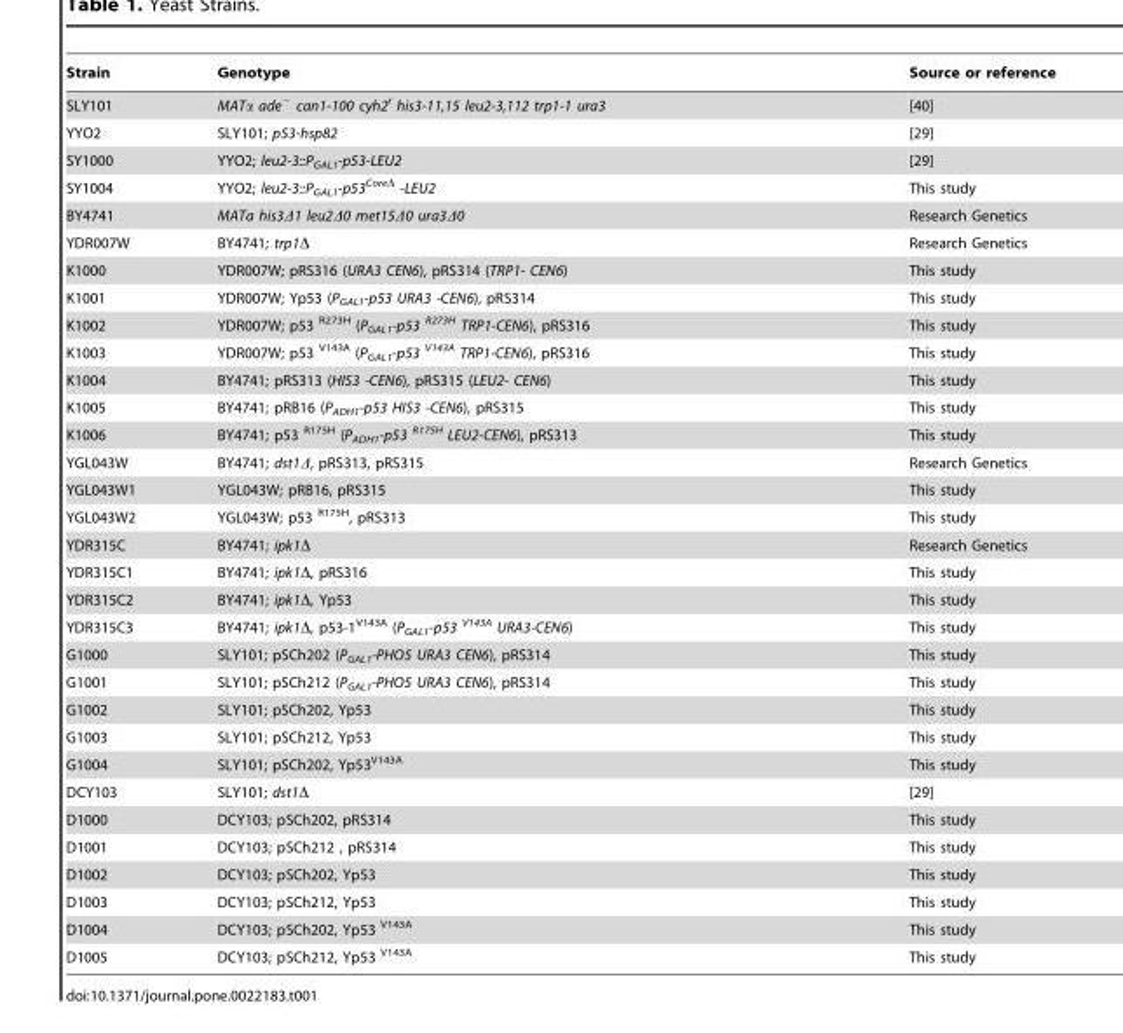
<table><thead><tr><td>Strain</td><td>Genotype</td><td>Source or reference</td></tr></thead><tbody><tr><td>SLY101</td><td>MATα ade<sup>−</sup> can1-100 cyh2<sup>r</sup> his3-11,15 leu2-3,112 trp1-1 ura3</td><td>[40]</td></tr><tr><td>YYO2</td><td>SLY101; p53-hsp82</td><td>[29]</td></tr><tr><td>SY1000</td><td>YYO2; leu2-3::P<sub>GAL1</sub>-p53-LEU2</td><td>[29]</td></tr><tr><td>SY1004</td><td>YYO2; leu2-3::P<sub>GAL1</sub>-p53<sup>CoreΔ</sup> -LEU2</td><td>This study</td></tr><tr><td>BY4741</td><td>MATa his3Δ1 leu2Δ0 met15Δ0 ura3Δ0</td><td>Research Genetics</td></tr><tr><td>YDR007W</td><td>BY4741; trp1Δ</td><td>Research Genetics</td></tr><tr><td>K1000</td><td>YDR007W; pRS316 (URA3 CEN6), pRS314 (TRP1- CEN6)</td><td>This study</td></tr><tr><td>K1001</td><td>YDR007W; Yp53 (P<sub>GAL1</sub>-p53 URA3 -CEN6), pRS314</td><td>This study</td></tr><tr><td>K1002</td><td>YDR007W; p53 <sup>R273H</sup> (P<sub>GAL1</sub>-p53 <sup>R273H</sup> TRP1-CEN6), pRS316</td><td>This study</td></tr><tr><td>K1003</td><td>YDR007W; p53 <sup>V143A</sup> (P<sub>GAL1</sub>-p53 <sup>V143A</sup> TRP1-CEN6), pRS316</td><td>This study</td></tr><tr><td>K1004</td><td>BY4741; pRS313 (HIS3 -CEN6), pRS315 (LEU2- CEN6)</td><td>This study</td></tr><tr><td>K1005</td><td>BY4741; pRB16 (P<sub>ADH1</sub>-p53 HIS3 -CEN6), pRS315</td><td>This study</td></tr><tr><td>K1006</td><td>BY4741; p53 <sup>R175H</sup> (P<sub>ADH1</sub>-p53 <sup>R175H</sup> LEU2-CEN6), pRS313</td><td>This study</td></tr><tr><td>YGL043W</td><td>BY4741; dst1Δ, pRS313, pRS315</td><td>Research Genetics</td></tr><tr><td>YGL043W1</td><td>YGL043W; pRB16, pRS315</td><td>This study</td></tr><tr><td>YGL043W2</td><td>YGL043W; p53 <sup>R175H</sup>, pRS313</td><td>This study</td></tr><tr><td>YDR315C</td><td>BY4741; ipk1Δ</td><td>Research Genetics</td></tr><tr><td>YDR315C1</td><td>BY4741; ipk1Δ, pRS316</td><td>This study</td></tr><tr><td>YDR315C2</td><td>BY4741; ipk1Δ, Yp53</td><td>This study</td></tr><tr><td>YDR315C3</td><td>BY4741; ipk1Δ, p53-1<sup>V143A</sup> (P<sub>GAL1</sub>-p53 <sup>V143A</sup> URA3-CEN6)</td><td>This study</td></tr><tr><td>G1000</td><td>SLY101; pSCh202 (P<sub>GAL1</sub>-PHO5 URA3 CEN6), pRS314</td><td>This study</td></tr><tr><td>G1001</td><td>SLY101; pSCh212 (P<sub>GAL1</sub>-PHO5 URA3 CEN6), pRS314</td><td>This study</td></tr><tr><td>G1002</td><td>SLY101; pSCh202, Yp53</td><td>This study</td></tr><tr><td>G1003</td><td>SLY101; pSCh212, Yp53</td><td>This study</td></tr><tr><td>G1004</td><td>SLY101; pSCh202, Yp53<sup>V143A</sup></td><td>This study</td></tr><tr><td>DCY103</td><td>SLY101; dst1Δ</td><td>[29]</td></tr><tr><td>D1000</td><td>DCY103; pSCh202, pRS314</td><td>This study</td></tr><tr><td>D1001</td><td>DCY103; pSCh212 , pRS314</td><td>This study</td></tr><tr><td>D1002</td><td>DCY103; pSCh202, Yp53</td><td>This study</td></tr><tr><td>D1003</td><td>DCY103; pSCh212, Yp53</td><td>This study</td></tr><tr><td>D1004</td><td>DCY103; pSCh202, Yp53 <sup>V143A</sup></td><td>This study</td></tr><tr><td>D1005</td><td>DCY103; pSCh212, Yp53 <sup>V143A</sup></td><td>This study</td></tr></tbody></table>